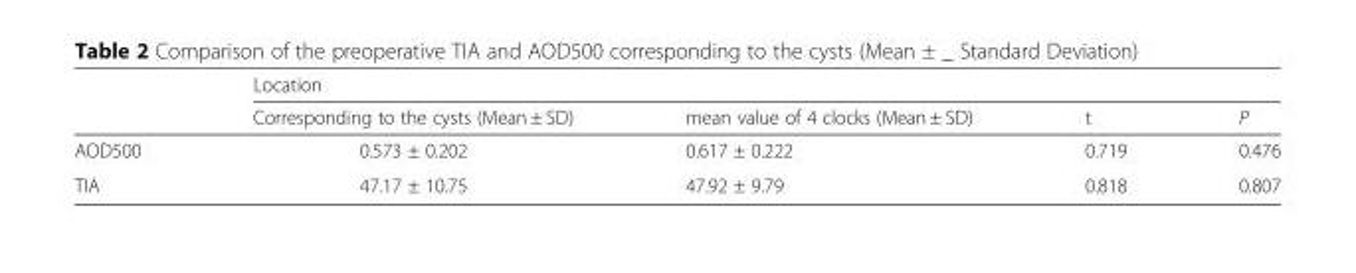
<table><thead><tr><td rowspan="2"></td><td colspan="4">Location</td></tr><tr><td>Corresponding to the cysts (Mean ± SD)</td><td>mean value of 4 clocks (Mean ± SD)</td><td>t</td><td>P</td></tr></thead><tbody><tr><td>AOD500</td><td>0.573 ± 0.202</td><td>0.617 ± 0.222</td><td>0.719</td><td>0.476</td></tr><tr><td>TIA</td><td>47.17 ± 10.75</td><td>47.92 ± 9.79</td><td>0.818</td><td>0.807</td></tr></tbody></table>